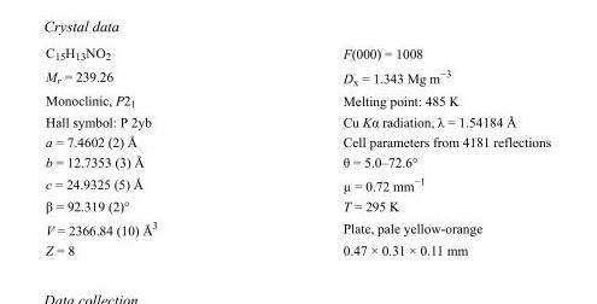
<table><tbody><tr><td>C<sub>15</sub>H<sub>13</sub>NO<sub>2</sub></td><td>F(000) = 1008</td></tr><tr><td>M<sub>r</sub> = 239.26</td><td>D<sub>x</sub> = 1.343 Mg m<sup>−3</sup></td></tr><tr><td>Monoclinic, P2<sub>1</sub></td><td>Melting point: 485 K</td></tr><tr><td>Hall symbol: P 2yb</td><td>Cu Kα radiation, λ = 1.54184 Å</td></tr><tr><td>a = 7.4602 (2) Å</td><td>Cell parameters from 4181 reflections</td></tr><tr><td>b = 12.7353 (3) Å</td><td>θ = 5.0–72.6°</td></tr><tr><td>c = 24.9325 (5) Å</td><td>µ = 0.72 mm<sup>−1</sup></td></tr><tr><td>β = 92.319 (2)°</td><td>T = 295 K</td></tr><tr><td>V = 2366.84 (10) Å<sup>3</sup></td><td>Plate, pale yellow-orange</td></tr><tr><td>Z = 8</td><td>0.47 × 0.31 × 0.11 mm</td></tr></tbody></table>